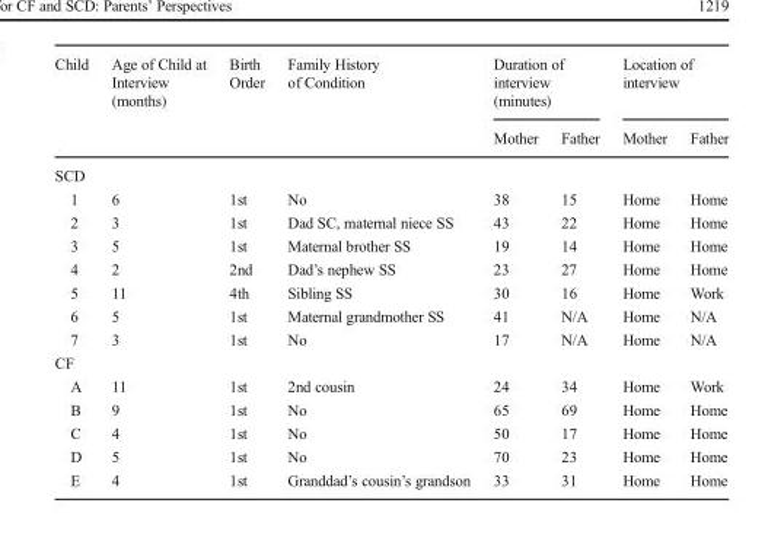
<table><thead><tr><td rowspan="2">Child</td><td rowspan="2">Age of Child at Interview (months)</td><td rowspan="2">Birth Order</td><td rowspan="2">Family History of Condition</td><td colspan="2">Duration of interview (minutes)</td><td colspan="2">Location of interview</td></tr><tr><td>Mother</td><td>Father</td><td>Mother</td><td>Father</td></tr></thead><tbody><tr><td colspan="8">SCD</td></tr><tr><td>1</td><td>6</td><td>1st</td><td>No</td><td>38</td><td>15</td><td>Home</td><td>Home</td></tr><tr><td>2</td><td>3</td><td>1st</td><td>Dad SC, maternal niece SS</td><td>43</td><td>22</td><td>Home</td><td>Home</td></tr><tr><td>3</td><td>5</td><td>1st</td><td>Maternal brother SS</td><td>19</td><td>14</td><td>Home</td><td>Home</td></tr><tr><td>4</td><td>2</td><td>2nd</td><td>Dad’s nephew SS</td><td>23</td><td>27</td><td>Home</td><td>Home</td></tr><tr><td>5</td><td>11</td><td>4th</td><td>Sibling SS</td><td>30</td><td>16</td><td>Home</td><td>Work</td></tr><tr><td>6</td><td>5</td><td>1st</td><td>Maternal grandmother SS</td><td>41</td><td>N/A</td><td>Home</td><td>N/A</td></tr><tr><td>7</td><td>3</td><td>1st</td><td>No</td><td>17</td><td>N/A</td><td>Home</td><td>N/A</td></tr><tr><td colspan="8">CF</td></tr><tr><td>A</td><td>11</td><td>1st</td><td>2nd cousin</td><td>24</td><td>34</td><td>Home</td><td>Work</td></tr><tr><td>B</td><td>9</td><td>1st</td><td>No</td><td>65</td><td>69</td><td>Home</td><td>Home</td></tr><tr><td>C</td><td>4</td><td>1st</td><td>No</td><td>50</td><td>17</td><td>Home</td><td>Home</td></tr><tr><td>D</td><td>5</td><td>1st</td><td>No</td><td>70</td><td>23</td><td>Home</td><td>Home</td></tr><tr><td>E</td><td>4</td><td>1st</td><td>Granddad’s cousin’s grandson</td><td>33</td><td>31</td><td>Home</td><td>Home</td></tr></tbody></table>